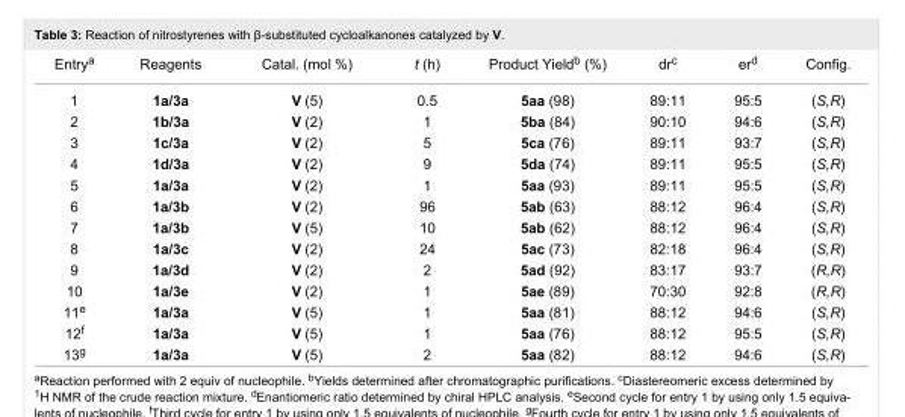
<table><tbody><tr><td>Entry<sup>a</sup></td><td>Reagents</td><td>Catal. (mol %)</td><td>t (h)</td><td>Product Yield<sup>b</sup> (%)</td><td>dr<sup>c</sup></td><td>er<sup>d</sup></td><td>Config.</td></tr><tr><td>1</td><td>1a/3a</td><td>V (5)</td><td>0.5</td><td>5aa (98)</td><td>89:11</td><td>95:5</td><td>(S,R)</td></tr><tr><td>2</td><td>1b/3a</td><td>V (2)</td><td>1</td><td>5ba (84)</td><td>90:10</td><td>94:6</td><td>(S,R)</td></tr><tr><td>3</td><td>1c/3a</td><td>V (2)</td><td>5</td><td>5ca (76)</td><td>89:11</td><td>93:7</td><td>(S,R)</td></tr><tr><td>4</td><td>1d/3a</td><td>V (2)</td><td>9</td><td>5da (74)</td><td>89:11</td><td>95:5</td><td>(S,R)</td></tr><tr><td>5</td><td>1a/3a</td><td>V (2)</td><td>1</td><td>5aa (93)</td><td>89:11</td><td>95:5</td><td>(S,R)</td></tr><tr><td>6</td><td>1a/3b</td><td>V (2)</td><td>96</td><td>5ab (63)</td><td>88:12</td><td>96:4</td><td>(S,R)</td></tr><tr><td>7</td><td>1a/3b</td><td>V (5)</td><td>10</td><td>5ab (62)</td><td>88:12</td><td>96:4</td><td>(S,R)</td></tr><tr><td>8</td><td>1a/3c</td><td>V (2)</td><td>24</td><td>5ac (73)</td><td>82:18</td><td>96:4</td><td>(S,R)</td></tr><tr><td>9</td><td>1a/3d</td><td>V (2)</td><td>2</td><td>5ad (92)</td><td>83:17</td><td>93:7</td><td>(R,R)</td></tr><tr><td>10</td><td>1a/3e</td><td>V (2)</td><td>1</td><td>5ae (89)</td><td>70:30</td><td>92:8</td><td>(R,R)</td></tr><tr><td>11<sup>e</sup></td><td>1a/3a</td><td>V (5)</td><td>1</td><td>5aa (81)</td><td>88:12</td><td>94:6</td><td>(S,R)</td></tr><tr><td>12<sup>f</sup></td><td>1a/3a</td><td>V (5)</td><td>1</td><td>5aa (76)</td><td>88:12</td><td>95:5</td><td>(S,R)</td></tr><tr><td>13<sup>g</sup></td><td>1a/3a</td><td>V (5)</td><td>2</td><td>5aa (82)</td><td>88:12</td><td>94:6</td><td>(S,R)</td></tr></tbody></table>